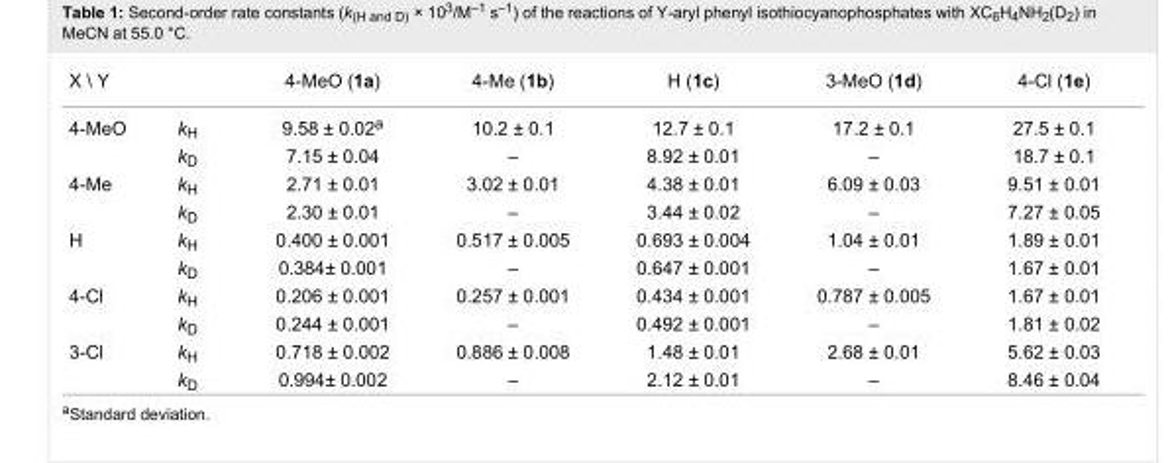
<table><tbody><tr><td colspan="2">X \ Y</td><td>4-MeO (1a)</td><td>4-Me (1b)</td><td>H (1c)</td><td>3-MeO (1d)</td><td>4-Cl (1e)</td></tr><tr><td rowspan="2">4-MeO</td><td>k<sub>H</sub></td><td>9.58 ± 0.02<sup>a</sup></td><td>10.2 ± 0.1</td><td>12.7 ± 0.1</td><td>17.2 ± 0.1</td><td>27.5 ± 0.1</td></tr><tr><td>k<sub>D</sub></td><td>7.15 ± 0.04</td><td>–</td><td>8.92 ± 0.01</td><td>–</td><td>18.7 ± 0.1</td></tr><tr><td rowspan="2">4-Me</td><td>k<sub>H</sub></td><td>2.71 ± 0.01</td><td>3.02 ± 0.01</td><td>4.38 ± 0.01</td><td>6.09 ± 0.03</td><td>9.51 ± 0.01</td></tr><tr><td>k<sub>D</sub></td><td>2.30 ± 0.01</td><td>–</td><td>3.44 ± 0.02</td><td>–</td><td>7.27 ± 0.05</td></tr><tr><td rowspan="2">H</td><td>k<sub>H</sub></td><td>0.400 ± 0.001</td><td>0.517 ± 0.005</td><td>0.693 ± 0.004</td><td>1.04 ± 0.01</td><td>1.89 ± 0.01</td></tr><tr><td>k<sub>D</sub></td><td>0.384± 0.001</td><td>–</td><td>0.647 ± 0.001</td><td>–</td><td>1.67 ± 0.01</td></tr><tr><td rowspan="2">4-Cl</td><td>k<sub>H</sub></td><td>0.206 ± 0.001</td><td>0.257 ± 0.001</td><td>0.434 ± 0.001</td><td>0.787 ± 0.005</td><td>1.67 ± 0.01</td></tr><tr><td>k<sub>D</sub></td><td>0.244 ± 0.001</td><td>–</td><td>0.492 ± 0.001</td><td>–</td><td>1.81 ± 0.02</td></tr><tr><td rowspan="2">3-Cl</td><td>k<sub>H</sub></td><td>0.718 ± 0.002</td><td>0.886 ± 0.008</td><td>1.48 ± 0.01</td><td>2.68 ± 0.01</td><td>5.62 ± 0.03</td></tr><tr><td>k<sub>D</sub></td><td>0.994± 0.002</td><td>–</td><td>2.12 ± 0.01</td><td>–</td><td>8.46 ± 0.04</td></tr></tbody></table>